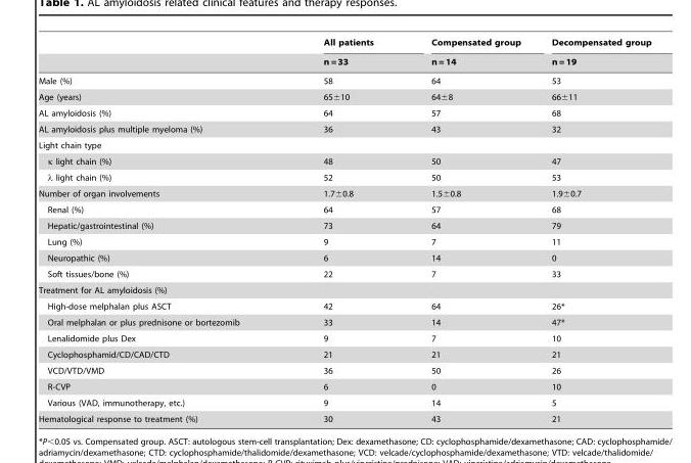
<table><thead><tr><td rowspan="2"></td><td rowspan="2">All patients n = 33</td><td rowspan="2">Compensated group n = 14</td><td rowspan="2">Decompensated group n = 19</td></tr><tr></tr></thead><tbody><tr><td>Male (%)</td><td>58</td><td>64</td><td>53</td></tr><tr><td>Age (years)</td><td>65±10</td><td>64±8</td><td>66±11</td></tr><tr><td>AL amyloidosis (%)</td><td>64</td><td>57</td><td>68</td></tr><tr><td>AL amyloidosis plus multiple myeloma (%)</td><td>36</td><td>43</td><td>32</td></tr><tr><td colspan="4">Light chain type</td></tr><tr><td>κ light chain (%)</td><td>48</td><td>50</td><td>47</td></tr><tr><td>λ light chain (%)</td><td>52</td><td>50</td><td>53</td></tr><tr><td>Number of organ involvements</td><td>1.7±0.8</td><td>1.5±0.8</td><td>1.9±0.7</td></tr><tr><td>Renal (%)</td><td>64</td><td>57</td><td>68</td></tr><tr><td>Hepatic/gastrointestinal (%)</td><td>73</td><td>64</td><td>79</td></tr><tr><td>Lung (%)</td><td>9</td><td>7</td><td>11</td></tr><tr><td>Neuropathic (%)</td><td>6</td><td>14</td><td>0</td></tr><tr><td>Soft tissues/bone (%)</td><td>22</td><td>7</td><td>33</td></tr><tr><td colspan="4">Treatment for AL amyloidosis (%)</td></tr><tr><td>High-dose melphalan plus ASCT</td><td>42</td><td>64</td><td>26*</td></tr><tr><td>Oral melphalan or plus prednisone or bortezomib</td><td>33</td><td>14</td><td>47*</td></tr><tr><td>Lenalidomide plus Dex</td><td>9</td><td>7</td><td>10</td></tr><tr><td>Cyclophosphamid/CD/CAD/CTD</td><td>21</td><td>21</td><td>21</td></tr><tr><td>VCD/VTD/VMD</td><td>36</td><td>50</td><td>26</td></tr><tr><td>R-CVP</td><td>6</td><td>0</td><td>10</td></tr><tr><td>Various (VAD, immunotherapy, etc.)</td><td>9</td><td>14</td><td>5</td></tr><tr><td>Hematological response to treatment (%)</td><td>30</td><td>43</td><td>21</td></tr></tbody></table>